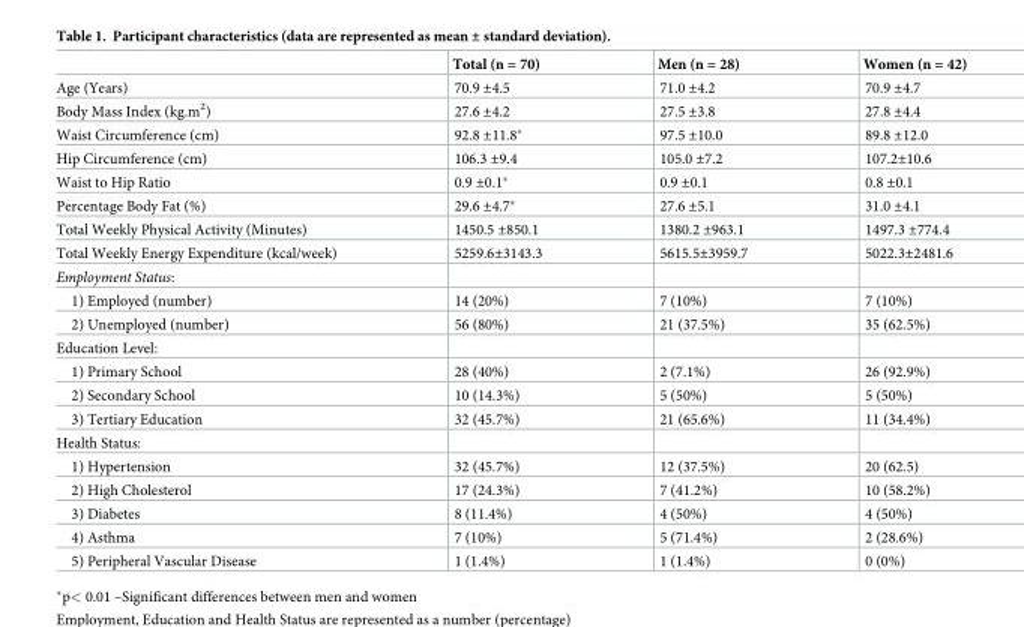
<table><thead><tr><td></td><td>Total (n = 70)</td><td>Men (n = 28)</td><td>Women (n = 42)</td></tr></thead><tbody><tr><td>Age (Years)</td><td>70.9 ±4.5</td><td>71.0 ±4.2</td><td>70.9 ±4.7</td></tr><tr><td>Body Mass Index (kg.m<sup>2</sup>)</td><td>27.6 ±4.2</td><td>27.5 ±3.8</td><td>27.8 ±4.4</td></tr><tr><td>Waist Circumference (cm)</td><td>92.8 ±11.8*</td><td>97.5 ±10.0</td><td>89.8 ±12.0</td></tr><tr><td>Hip Circumference (cm)</td><td>106.3 ±9.4</td><td>105.0 ±7.2</td><td>107.2±10.6</td></tr><tr><td>Waist to Hip Ratio</td><td>0.9 ±0.1*</td><td>0.9 ±0.1</td><td>0.8 ±0.1</td></tr><tr><td>Percentage Body Fat (%)</td><td>29.6 ±4.7*</td><td>27.6 ±5.1</td><td>31.0 ±4.1</td></tr><tr><td>Total Weekly Physical Activity (Minutes)</td><td>1450.5 ±850.1</td><td>1380.2 ±963.1</td><td>1497.3 ±774.4</td></tr><tr><td>Total Weekly Energy Expenditure (kcal/week)</td><td>5259.6±3143.3</td><td>5615.5±3959.7</td><td>5022.3±2481.6</td></tr><tr><td colspan="4">Employment Status:</td></tr><tr><td>1) Employed (number)</td><td>14 (20%)</td><td>7 (10%)</td><td>7 (10%)</td></tr><tr><td>2) Unemployed (number)</td><td>56 (80%)</td><td>21 (37.5%)</td><td>35 (62.5%)</td></tr><tr><td colspan="4">Education Level:</td></tr><tr><td>1) Primary School</td><td>28 (40%)</td><td>2 (7.1%)</td><td>26 (92.9%)</td></tr><tr><td>2) Secondary School</td><td>10 (14.3%)</td><td>5 (50%)</td><td>5 (50%)</td></tr><tr><td>3) Tertiary Education</td><td>32 (45.7%)</td><td>21 (65.6%)</td><td>11 (34.4%)</td></tr><tr><td colspan="4">Health Status:</td></tr><tr><td>1) Hypertension</td><td>32 (45.7%)</td><td>12 (37.5%)</td><td>20 (62.5)</td></tr><tr><td>2) High Cholesterol</td><td>17 (24.3%)</td><td>7 (41.2%)</td><td>10 (58.2%)</td></tr><tr><td>3) Diabetes</td><td>8 (11.4%)</td><td>4 (50%)</td><td>4 (50%)</td></tr><tr><td>4) Asthma</td><td>7 (10%)</td><td>5 (71.4%)</td><td>2 (28.6%)</td></tr><tr><td>5) Peripheral Vascular Disease</td><td>1 (1.4%)</td><td>1 (1.4%)</td><td>0 (0%)</td></tr></tbody></table>